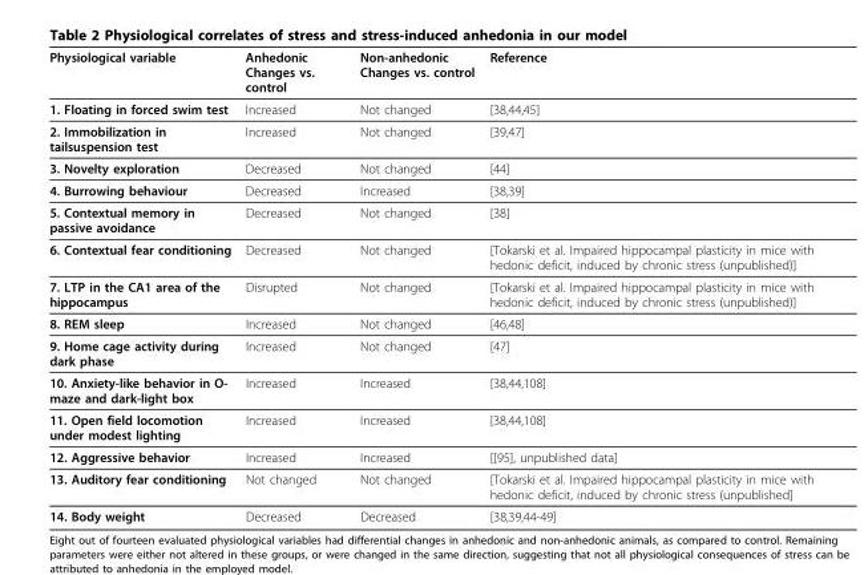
<table><thead><tr><td>Physiological variable</td><td>Anhedonic Changes vs. control</td><td>Non-anhedonic Changes vs. control</td><td>Reference</td></tr></thead><tbody><tr><td>1. Floating in forced swim test</td><td>Increased</td><td>Not changed</td><td>[38,44,45]</td></tr><tr><td>2. Immobilization in tailsuspension test</td><td>Increased</td><td>Not changed</td><td>[39,47]</td></tr><tr><td>3. Novelty exploration</td><td>Decreased</td><td>Not changed</td><td>[44]</td></tr><tr><td>4. Burrowing behaviour</td><td>Decreased</td><td>Increased</td><td>[38,39]</td></tr><tr><td>5. Contextual memory in passive avoidance</td><td>Decreased</td><td>Not changed</td><td>[38]</td></tr><tr><td>6. Contextual fear conditioning</td><td>Decreased</td><td>Not changed</td><td>[Tokarski et al. Impaired hippocampal plasticity in mice with hedonic deficit, induced by chronic stress (unpublished)]</td></tr><tr><td>7. LTP in the CA1 area of the hippocampus</td><td>Disrupted</td><td>Not changed</td><td>[Tokarski et al. Impaired hippocampal plasticity in mice with hedonic deficit, induced by chronic stress (unpublished)]</td></tr><tr><td>8. REM sleep</td><td>Increased</td><td>Not changed</td><td>[46,48]</td></tr><tr><td>9. Home cage activity during dark phase</td><td>Increased</td><td>Not changed</td><td>[47]</td></tr><tr><td>10. Anxiety-like behavior in O- maze and dark-light box</td><td>Increased</td><td>Increased</td><td>[38,44,108]</td></tr><tr><td>11. Open field locomotion under modest lighting</td><td>Increased</td><td>Increased</td><td>[38,44,108]</td></tr><tr><td>12. Aggressive behavior</td><td>Increased</td><td>Increased</td><td>[[95], unpublished data]</td></tr><tr><td>13. Auditory fear conditioning</td><td>Not changed</td><td>Not changed</td><td>[Tokarski et al. Impaired hippocampal plasticity in mice with hedonic deficit, induced by chronic stress (unpublished]</td></tr><tr><td>14. Body weight</td><td>Decreased</td><td>Decreased</td><td>[38,39,44-49]</td></tr></tbody></table>